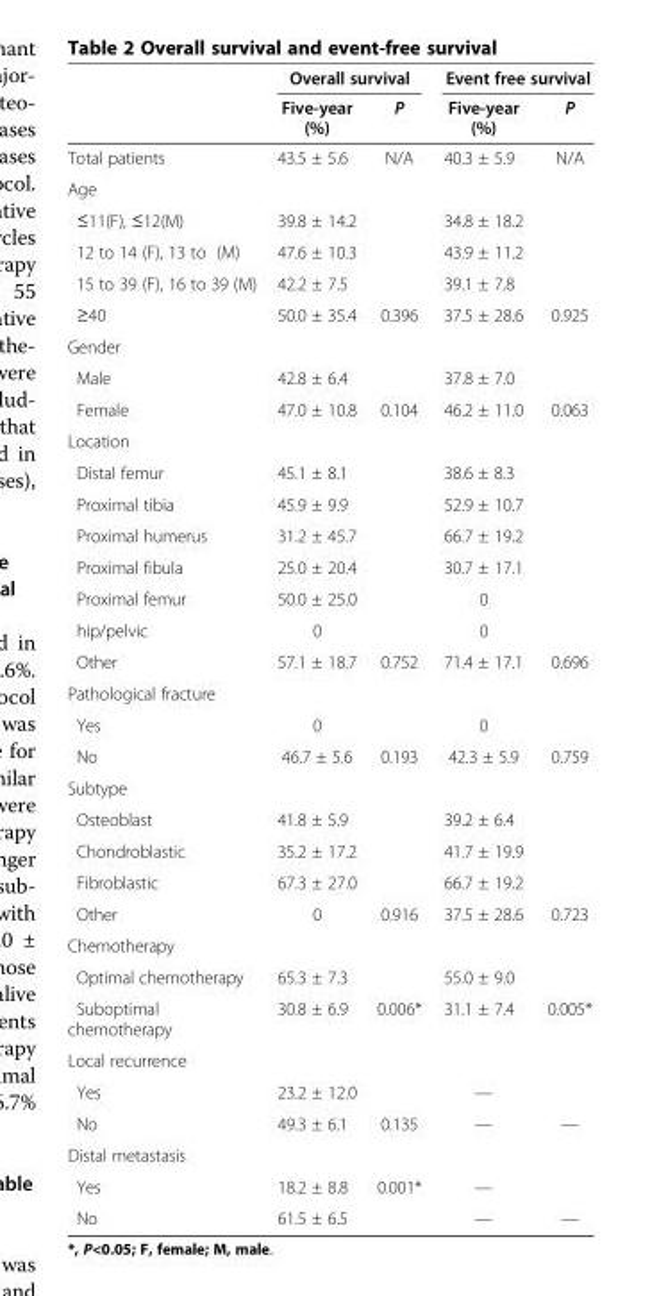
<table><thead><tr><td rowspan="2"></td><td colspan="2">Overall survival</td><td colspan="2">Event free survival</td></tr><tr><td>Five-year (%)</td><td>P</td><td>Five-year (%)</td><td>P</td></tr></thead><tbody><tr><td>Total patients</td><td>43.5 ± 5.6</td><td>N/A</td><td>40.3 ± 5.9</td><td>N/A</td></tr><tr><td colspan="5">Age</td></tr><tr><td>≤11(F), ≤12(M)</td><td>39.8 ± 14.2</td><td></td><td>34.8 ± 18.2</td><td></td></tr><tr><td>12 to 14 (F), 13 to (M)</td><td>47.6 ± 10.3</td><td></td><td>43.9 ± 11.2</td><td></td></tr><tr><td>15 to 39 (F), 16 to 39 (M)</td><td>42.2 ± 7.5</td><td></td><td>39.1 ± 7.8</td><td></td></tr><tr><td>≥40</td><td>50.0 ± 35.4</td><td>0.396</td><td>37.5 ± 28.6</td><td>0.925</td></tr><tr><td colspan="5">Gender</td></tr><tr><td>Male</td><td>42.8 ± 6.4</td><td></td><td>37.8 ± 7.0</td><td></td></tr><tr><td>Female</td><td>47.0 ± 10.8</td><td>0.104</td><td>46.2 ± 11.0</td><td>0.063</td></tr><tr><td colspan="5">Location</td></tr><tr><td>Distal femur</td><td>45.1 ± 8.1</td><td></td><td>38.6 ± 8.3</td><td></td></tr><tr><td>Proximal tibia</td><td>45.9 ± 9.9</td><td></td><td>52.9 ± 10.7</td><td></td></tr><tr><td>Proximal humerus</td><td>31.2 ± 45.7</td><td></td><td>66.7 ± 19.2</td><td></td></tr><tr><td>Proximal fibula</td><td>25.0 ± 20.4</td><td></td><td>30.7 ± 17.1</td><td></td></tr><tr><td>Proximal femur</td><td>50.0 ± 25.0</td><td></td><td>0</td><td></td></tr><tr><td>hip/pelvic</td><td>0</td><td></td><td>0</td><td></td></tr><tr><td>Other</td><td>57.1 ± 18.7</td><td>0.752</td><td>71.4 ± 17.1</td><td>0.696</td></tr><tr><td colspan="5">Pathological fracture</td></tr><tr><td>Yes</td><td>0</td><td></td><td>0</td><td></td></tr><tr><td>No</td><td>46.7 ± 5.6</td><td>0.193</td><td>42.3 ± 5.9</td><td>0.759</td></tr><tr><td colspan="5">Subtype</td></tr><tr><td>Osteoblast</td><td>41.8 ± 5.9</td><td></td><td>39.2 ± 6.4</td><td></td></tr><tr><td>Chondroblastic</td><td>35.2 ± 17.2</td><td></td><td>41.7 ± 19.9</td><td></td></tr><tr><td>Fibroblastic</td><td>67.3 ± 27.0</td><td></td><td>66.7 ± 19.2</td><td></td></tr><tr><td>Other</td><td>0</td><td>0.916</td><td>37.5 ± 28.6</td><td>0.723</td></tr><tr><td colspan="5">Chemotherapy</td></tr><tr><td>Optimal chemotherapy</td><td>65.3 ± 7.3</td><td></td><td>55.0 ± 9.0</td><td></td></tr><tr><td>Suboptimal chemotherapy</td><td>30.8 ± 6.9</td><td>0.006*</td><td>31.1 ± 7.4</td><td>0.005*</td></tr><tr><td colspan="5">Local recurrence</td></tr><tr><td>Yes</td><td>23.2 ± 12.0</td><td></td><td>—</td><td></td></tr><tr><td>No</td><td>49.3 ± 6.1</td><td>0.135</td><td>—</td><td>—</td></tr><tr><td colspan="5">Distal metastasis</td></tr><tr><td>Yes</td><td>18.2 ± 8.8</td><td>0.001*</td><td>—</td><td></td></tr><tr><td>No</td><td>61.5 ± 6.5</td><td></td><td>—</td><td>—</td></tr></tbody></table>